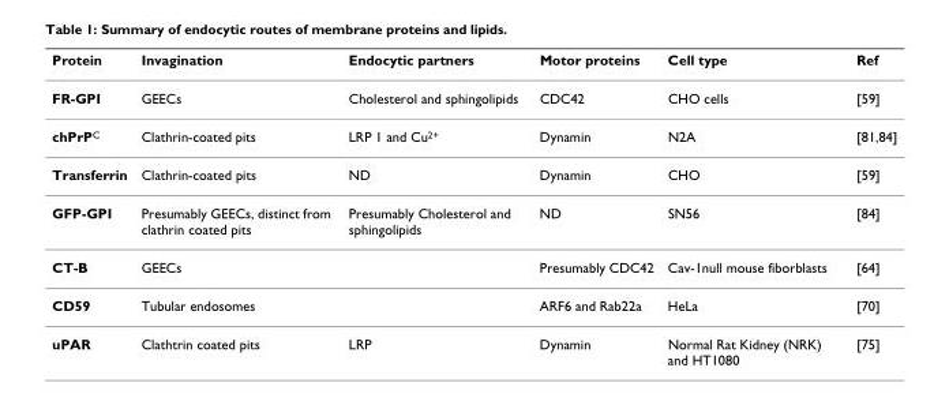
<table><thead><tr><td>Protein</td><td>Invagination</td><td>Endocytic partners</td><td>Motor proteins</td><td>Cell type</td><td>Ref</td></tr></thead><tbody><tr><td>FR-GPI</td><td>GEECs</td><td>Cholesterol and sphingolipids</td><td>CDC42</td><td>CHO cells</td><td>[59]</td></tr><tr><td>chPrP<sup>C</sup></td><td>Clathrin-coated pits</td><td>LRP 1 and Cu<sup>2+</sup></td><td>Dynamin</td><td>N2A</td><td>[81,84]</td></tr><tr><td>Transferrin</td><td>Clathrin-coated pits</td><td>ND</td><td>Dynamin</td><td>CHO</td><td>[59]</td></tr><tr><td>GFP-GPI</td><td>Presumably GEECs, distinct from clathrin coated pits</td><td>Presumably Cholesterol and sphingolipids</td><td>ND</td><td>SN56</td><td>[84]</td></tr><tr><td>CT-B</td><td>GEECs</td><td></td><td>Presumably CDC42</td><td>Cav-1null mouse fiborblasts</td><td>[64]</td></tr><tr><td>CD59</td><td>Tubular endosomes</td><td></td><td>ARF6 and Rab22a</td><td>HeLa</td><td>[70]</td></tr><tr><td>uPAR</td><td>Clathtrin coated pits</td><td>LRP</td><td>Dynamin</td><td>Normal Rat Kidney (NRK) and HT1080</td><td>[75]</td></tr></tbody></table>